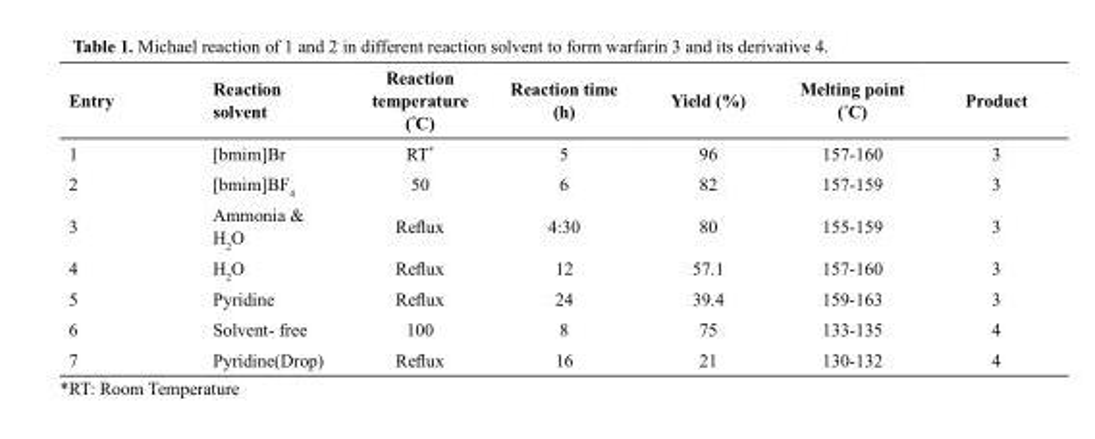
<table><thead><tr><td>Entry</td><td>Reaction solvent</td><td>Reaction temperature (<sup>°</sup>C)</td><td>Reaction time (h)</td><td>Yield (%)</td><td>Melting point (<sup>°</sup>C)</td><td>Product</td></tr></thead><tbody><tr><td>1</td><td>[bmim]Br</td><td>RT*</td><td>5</td><td>96</td><td>157-160</td><td>3</td></tr><tr><td>2</td><td>[bmim]BF<sub>4</sub></td><td>50</td><td>6</td><td>82</td><td>157-159</td><td>3</td></tr><tr><td>3</td><td>Ammonia &amp; H<sub>2</sub>O</td><td>Reflux</td><td>4:30</td><td>80</td><td>155-159</td><td>3</td></tr><tr><td>4</td><td>H<sub>2</sub>O</td><td>Reflux</td><td>12</td><td>57.1</td><td>157-160</td><td>3</td></tr><tr><td>5</td><td>Pyridine</td><td>Reflux</td><td>24</td><td>39.4</td><td>159-163</td><td>3</td></tr><tr><td>6</td><td>Solvent- free</td><td>100</td><td>8</td><td>75</td><td>133-135</td><td>4</td></tr><tr><td>7</td><td>Pyridine(Drop)</td><td>Reflux</td><td>16</td><td>21</td><td>130-132</td><td>4</td></tr></tbody></table>